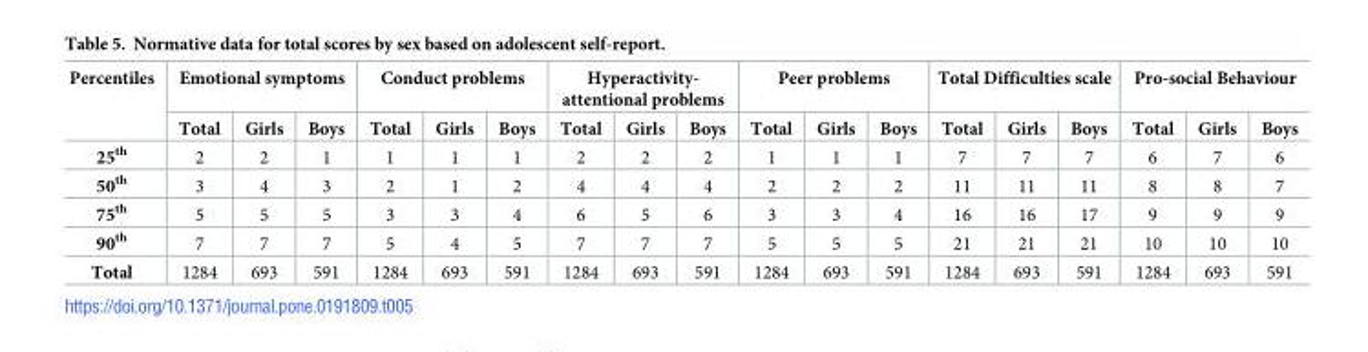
<table><thead><tr><td rowspan="2">Percentiles</td><td colspan="3">Emotional symptoms</td><td colspan="3">Conduct problems</td><td colspan="3">Hyperactivity- attentional problems</td><td colspan="3">Peer problems</td><td colspan="3">Total Difficulties scale</td><td colspan="3">Pro-social Behaviour</td></tr><tr><td>Total</td><td>Girls</td><td>Boys</td><td>Total</td><td>Girls</td><td>Boys</td><td>Total</td><td>Girls</td><td>Boys</td><td>Total</td><td>Girls</td><td>Boys</td><td>Total</td><td>Girls</td><td>Boys</td><td>Total</td><td>Girls</td><td>Boys</td></tr></thead><tbody><tr><td>25<sup>th</sup></td><td>2</td><td>2</td><td>1</td><td>1</td><td>1</td><td>1</td><td>2</td><td>2</td><td>2</td><td>1</td><td>1</td><td>1</td><td>7</td><td>7</td><td>7</td><td>6</td><td>7</td><td>6</td></tr><tr><td>50<sup>th</sup></td><td>3</td><td>4</td><td>3</td><td>2</td><td>1</td><td>2</td><td>4</td><td>4</td><td>4</td><td>2</td><td>2</td><td>2</td><td>11</td><td>11</td><td>11</td><td>8</td><td>8</td><td>7</td></tr><tr><td>75<sup>th</sup></td><td>5</td><td>5</td><td>5</td><td>3</td><td>3</td><td>4</td><td>6</td><td>5</td><td>6</td><td>3</td><td>3</td><td>4</td><td>16</td><td>16</td><td>17</td><td>9</td><td>9</td><td>9</td></tr><tr><td>90<sup>th</sup></td><td>7</td><td>7</td><td>7</td><td>5</td><td>4</td><td>5</td><td>7</td><td>7</td><td>7</td><td>5</td><td>5</td><td>5</td><td>21</td><td>21</td><td>21</td><td>10</td><td>10</td><td>10</td></tr><tr><td>Total</td><td>1284</td><td>693</td><td>591</td><td>1284</td><td>693</td><td>591</td><td>1284</td><td>693</td><td>591</td><td>1284</td><td>693</td><td>591</td><td>1284</td><td>693</td><td>591</td><td>1284</td><td>693</td><td>591</td></tr></tbody></table>